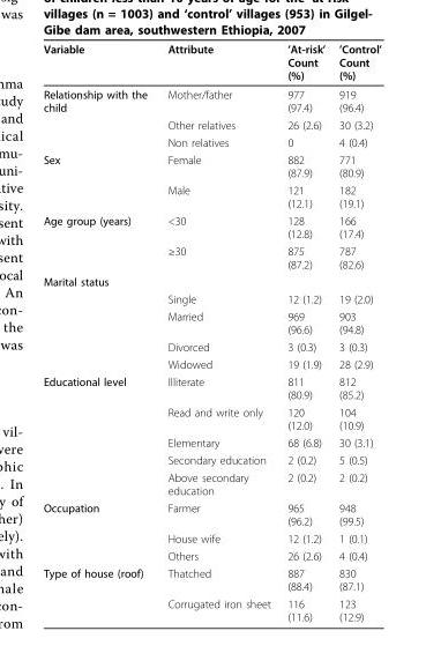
<table><thead><tr><td>Variable</td><td>Attribute</td><td>’At-risk’ Count (%)</td><td>’Control’ Count (%)</td></tr></thead><tbody><tr><td rowspan="3">Relationship with the child</td><td>Mother/father</td><td>977 (97.4)</td><td>919 (96.4)</td></tr><tr><td>Other relatives</td><td>26 (2.6)</td><td>30 (3.2)</td></tr><tr><td>Non relatives</td><td>0</td><td>4 (0.4)</td></tr><tr><td rowspan="2">Sex</td><td>Female</td><td>882 (87.9)</td><td>771 (80.9)</td></tr><tr><td>Male</td><td>121 (12.1)</td><td>182 (19.1)</td></tr><tr><td rowspan="2">Age group (years)</td><td>&lt;30</td><td>128 (12.8)</td><td>166 (17.4)</td></tr><tr><td>≥30</td><td>875 (87.2)</td><td>787 (82.6)</td></tr><tr><td colspan="4">Marital status</td></tr><tr><td></td><td>Single</td><td>12 (1.2)</td><td>19 (2.0)</td></tr><tr><td></td><td>Married</td><td>969 (96.6)</td><td>903 (94.8)</td></tr><tr><td></td><td>Divorced</td><td>3 (0.3)</td><td>3 (0.3)</td></tr><tr><td></td><td>Widowed</td><td>19 (1.9)</td><td>28 (2.9)</td></tr><tr><td rowspan="5">Educational level</td><td>Illiterate</td><td>811 (80.9)</td><td>812 (85.2)</td></tr><tr><td>Read and write only</td><td>120 (12.0)</td><td>104 (10.9)</td></tr><tr><td>Elementary</td><td>68 (6.8)</td><td>30 (3.1)</td></tr><tr><td>Secondary education</td><td>2 (0.2)</td><td>5 (0.5)</td></tr><tr><td>Above secondary education</td><td>2 (0.2)</td><td>2 (0.2)</td></tr><tr><td rowspan="3">Occupation</td><td>Farmer</td><td>965 (96.2)</td><td>948 (99.5)</td></tr><tr><td>House wife</td><td>12 (1.2)</td><td>1 (0.1)</td></tr><tr><td>Others</td><td>26 (2.6)</td><td>4 (0.4)</td></tr><tr><td rowspan="2">Type of house (roof)</td><td>Thatched</td><td>887 (88.4)</td><td>830 (87.1)</td></tr><tr><td>Corrugated iron sheet</td><td>116 (11.6)</td><td>123 (12.9)</td></tr></tbody></table>